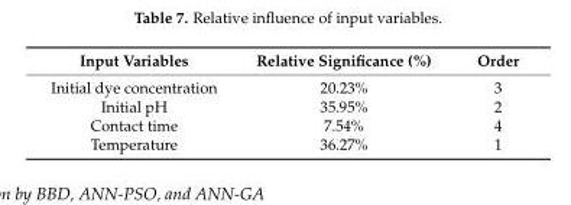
<table><thead><tr><td>Input Variables</td><td>Relative Significance (%)</td><td>Order</td></tr></thead><tbody><tr><td>Initial dye concentration</td><td>20.23%</td><td>3</td></tr><tr><td>Initial pH</td><td>35.95%</td><td>2</td></tr><tr><td>Contact time</td><td>7.54%</td><td>4</td></tr><tr><td>Temperature</td><td>36.27%</td><td>1</td></tr></tbody></table>